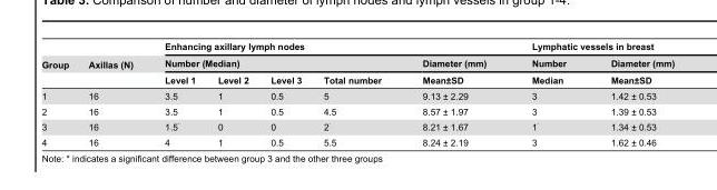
<table><thead><tr><td rowspan="3">Group</td><td rowspan="3">Axillas (N)</td><td colspan="5">Enhancing axillary lymph nodes</td><td colspan="2">Lymphatic vessels in breast</td></tr><tr><td colspan="4">Number (Median)</td><td rowspan="2">Diameter (mm) Mean±SD</td><td rowspan="2">Number Median</td><td rowspan="2">Diameter (mm) Mean±SD</td></tr><tr><td>Level 1</td><td>Level 2</td><td>Level 3</td><td>Total number</td></tr></thead><tbody><tr><td>1</td><td>16</td><td>3.5</td><td>1</td><td>0.5</td><td>5</td><td>9.13 ± 2.29</td><td>3</td><td>1.42 ± 0.53</td></tr><tr><td>2</td><td>16</td><td>3.5</td><td>1</td><td>0.5</td><td>4.5</td><td>8.57 ± 1.97</td><td>3</td><td>1.39 ± 0.53</td></tr><tr><td>3</td><td>16</td><td>1.5 *</td><td>0</td><td>0</td><td>2 *</td><td>8.21 ± 1.67</td><td>1 *</td><td>1.34 ± 0.53</td></tr><tr><td>4</td><td>16</td><td>4</td><td>1</td><td>0.5</td><td>5.5</td><td>8.24 ± 2.19</td><td>3</td><td>1.62 ± 0.46</td></tr></tbody></table>